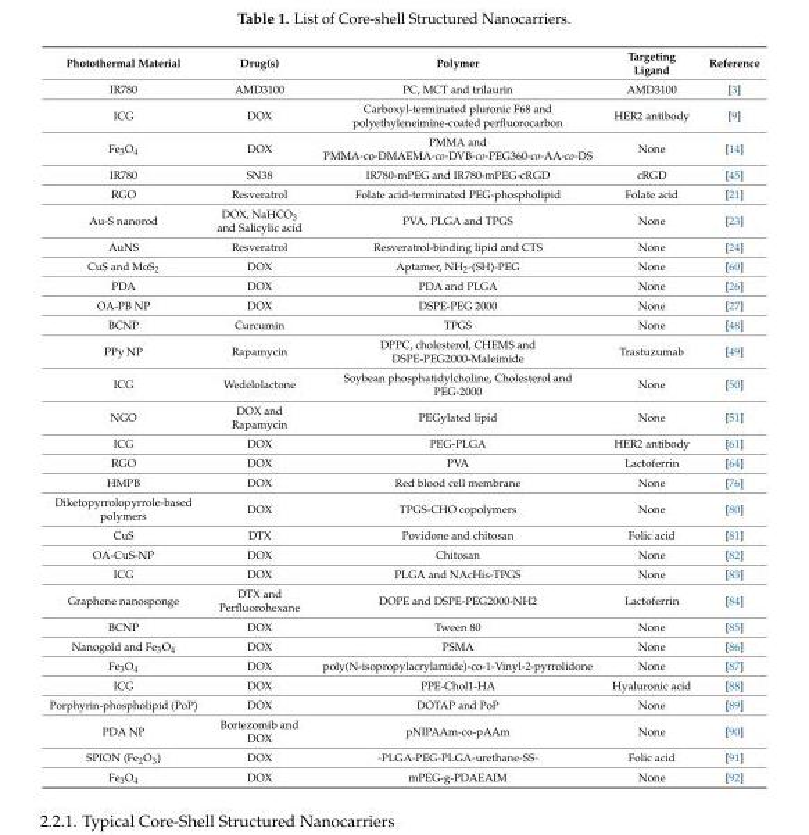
<table><thead><tr><td>Photothermal Material</td><td>Drug(s)</td><td>Polymer</td><td>Targeting Ligand</td><td>Reference</td></tr></thead><tbody><tr><td>IR780</td><td>AMD3100</td><td>PC, MCT and trilaurin</td><td>AMD3100</td><td>[3]</td></tr><tr><td>ICG</td><td>DOX</td><td>Carboxyl-terminated pluronic F68 and polyethyleneimine-coated perfluorocarbon</td><td>HER2 antibody</td><td>[9]</td></tr><tr><td>Fe3O4</td><td>DOX</td><td>PMMA and PMMA-co-DMAEMA-co-DVB-co-PEG360-co-AA-co-DS</td><td>None</td><td>[14]</td></tr><tr><td>IR780</td><td>SN38</td><td>IR780-mPEG and IR780-mPEG-cRGD</td><td>cRGD</td><td>[45]</td></tr><tr><td>RGO</td><td>Resveratrol</td><td>Folate acid-terminated PEG-phospholipid</td><td>Folate acid</td><td>[21]</td></tr><tr><td>Au-S nanorod</td><td>DOX, NaHCO3 and Salicylic acid</td><td>PVA, PLGA and TPGS</td><td>None</td><td>[23]</td></tr><tr><td>AuNS</td><td>Resveratrol</td><td>Resveratrol-binding lipid and CTS</td><td>None</td><td>[24]</td></tr><tr><td>CuS and MoS2</td><td>DOX</td><td>Aptamer, NH2-(SH)-PEG</td><td>None</td><td>[60]</td></tr><tr><td>PDA</td><td>DOX</td><td>PDA and PLGA</td><td>None</td><td>[26]</td></tr><tr><td>OA-PB NP</td><td>DOX</td><td>DSPE-PEG 2000</td><td>None</td><td>[27]</td></tr><tr><td>BCNP</td><td>Curcumin</td><td>TPGS</td><td>None</td><td>[48]</td></tr><tr><td>PPy NP</td><td>Rapamycin</td><td>DPPC, cholesterol, CHEMS and DSPE-PEG2000-Maleimide</td><td>Trastuzumab</td><td>[49]</td></tr><tr><td>ICG</td><td>Wedelolactone</td><td>Soybean phosphatidylcholine, Cholesterol and PEG-2000</td><td>None</td><td>[50]</td></tr><tr><td>NGO</td><td>DOX and Rapamycin</td><td>PEGylated lipid</td><td>None</td><td>[51]</td></tr><tr><td>ICG</td><td>DOX</td><td>PEG-PLGA</td><td>HER2 antibody</td><td>[61]</td></tr><tr><td>RGO</td><td>DOX</td><td>PVA</td><td>Lactoferrin</td><td>[64]</td></tr><tr><td>HMPB</td><td>DOX</td><td>Red blood cell membrane</td><td>None</td><td>[76]</td></tr><tr><td>Diketopyrrolopyrrole-based polymers</td><td>DOX</td><td>TPGS-CHO copolymers</td><td>None</td><td>[80]</td></tr><tr><td>CuS</td><td>DTX</td><td>Povidone and chitosan</td><td>Folic acid</td><td>[81]</td></tr><tr><td>OA-CuS-NP</td><td>DOX</td><td>Chitosan</td><td>None</td><td>[82]</td></tr><tr><td>ICG</td><td>DOX</td><td>PLGA and NAcHis-TPGS</td><td>None</td><td>[83]</td></tr><tr><td>Graphene nanosponge</td><td>DTX and Perfluorohexane</td><td>DOPE and DSPE-PEG2000-NH2</td><td>Lactoferrin</td><td>[84]</td></tr><tr><td>BCNP</td><td>DOX</td><td>Tween 80</td><td>None</td><td>[85]</td></tr><tr><td>Nanogold and Fe3O4</td><td>DOX</td><td>PSMA</td><td>None</td><td>[86]</td></tr><tr><td>Fe3O4</td><td>DOX</td><td>poly(N-isopropylacrylamide)-co-1-Vinyl-2-pyrrolidone</td><td>None</td><td>[87]</td></tr><tr><td>ICG</td><td>DOX</td><td>PPE-Chol1-HA</td><td>Hyaluronic acid</td><td>[88]</td></tr><tr><td>Porphyrin-phospholipid (PoP)</td><td>DOX</td><td>DOTAP and PoP</td><td>None</td><td>[89]</td></tr><tr><td>PDA NP</td><td>Bortezomib and DOX</td><td>pNIPAAm-co-pAAm</td><td>None</td><td>[90]</td></tr><tr><td>SPION (Fe2O3)</td><td>DOX</td><td>-PLGA-PEG-PLGA-urethane-SS-</td><td>Folic acid</td><td>[91]</td></tr><tr><td>Fe3O4</td><td>DOX</td><td>mPEG-g-PDAEAIM</td><td>None</td><td>[92]</td></tr></tbody></table>